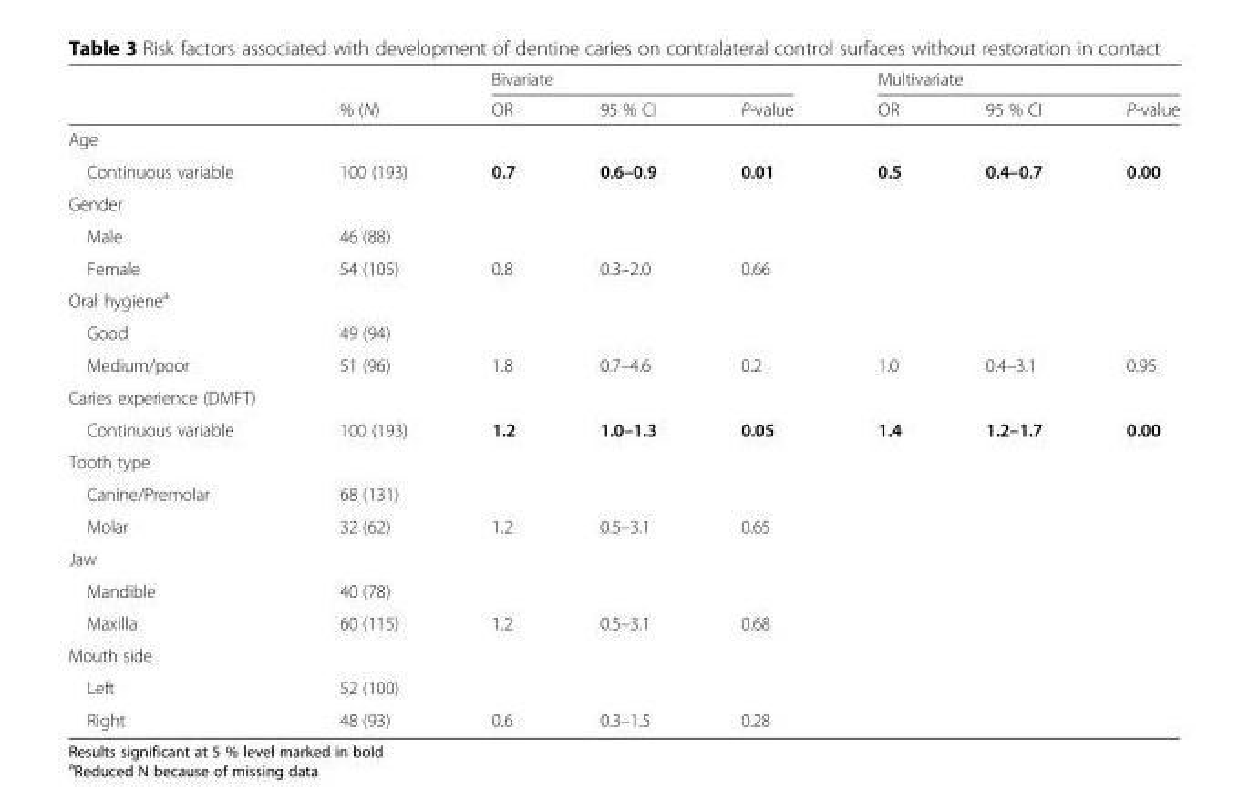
<table><thead><tr><td rowspan="2"></td><td rowspan="2">% (N)</td><td colspan="3">Bivariate</td><td colspan="3">Multivariate</td></tr><tr><td>OR</td><td>95 % CI</td><td>P-value</td><td>OR</td><td>95 % CI</td><td>P-value</td></tr></thead><tbody><tr><td colspan="8">Age</td></tr><tr><td>Continuous variable</td><td>100 (193)</td><td>0.7</td><td>0.6–0.9</td><td>0.01</td><td>0.5</td><td>0.4–0.7</td><td>0.00</td></tr><tr><td colspan="8">Gender</td></tr><tr><td>Male</td><td>46 (88)</td><td></td><td></td><td></td><td></td><td></td><td></td></tr><tr><td>Female</td><td>54 (105)</td><td>0.8</td><td>0.3–2.0</td><td>0.66</td><td></td><td></td><td></td></tr><tr><td colspan="8">Oral hygiene<sup>a</sup></td></tr><tr><td>Good</td><td>49 (94)</td><td></td><td></td><td></td><td></td><td></td><td></td></tr><tr><td>Medium/poor</td><td>51 (96)</td><td>1.8</td><td>0.7–4.6</td><td>0.2</td><td>1.0</td><td>0.4–3.1</td><td>0.95</td></tr><tr><td colspan="8">Caries experience (DMFT)</td></tr><tr><td>Continuous variable</td><td>100 (193)</td><td>1.2</td><td>1.0–1.3</td><td>0.05</td><td>1.4</td><td>1.2–1.7</td><td>0.00</td></tr><tr><td colspan="8">Tooth type</td></tr><tr><td>Canine/Premolar</td><td>68 (131)</td><td></td><td></td><td></td><td></td><td></td><td></td></tr><tr><td>Molar</td><td>32 (62)</td><td>1.2</td><td>0.5–3.1</td><td>0.65</td><td></td><td></td><td></td></tr><tr><td colspan="8">Jaw</td></tr><tr><td>Mandible</td><td>40 (78)</td><td></td><td></td><td></td><td></td><td></td><td></td></tr><tr><td>Maxilla</td><td>60 (115)</td><td>1.2</td><td>0.5–3.1</td><td>0.68</td><td></td><td></td><td></td></tr><tr><td colspan="8">Mouth side</td></tr><tr><td>Left</td><td>52 (100)</td><td></td><td></td><td></td><td></td><td></td><td></td></tr><tr><td>Right</td><td>48 (93)</td><td>0.6</td><td>0.3–1.5</td><td>0.28</td><td></td><td></td><td></td></tr></tbody></table>